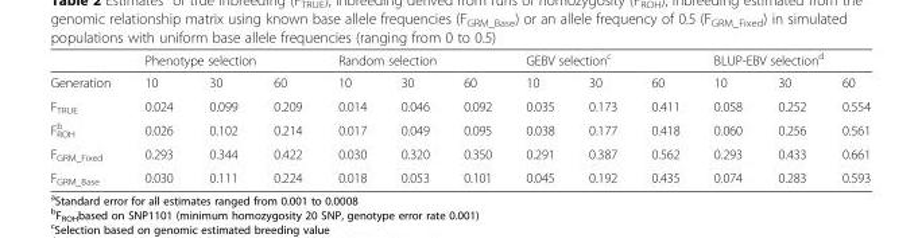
<table><thead><tr><td rowspan="2">Generation</td><td colspan="3">Phenotype selection</td><td colspan="3">Random selection</td><td colspan="3">GEBV selection<sup>c</sup></td><td colspan="3">BLUP-EBV selection<sup>d</sup></td></tr><tr><td>10</td><td>30</td><td>60</td><td>10</td><td>30</td><td>60</td><td>10</td><td>30</td><td>60</td><td>10</td><td>30</td><td>60</td></tr></thead><tbody><tr><td>F<sub>TRUE</sub></td><td>0.024</td><td>0.099</td><td>0.209</td><td>0.014</td><td>0.046</td><td>0.092</td><td>0.035</td><td>0.173</td><td>0.411</td><td>0.058</td><td>0.252</td><td>0.554</td></tr><tr><td>F<sub>ROH</sub> <sup>b</sup></td><td>0.026</td><td>0.102</td><td>0.214</td><td>0.017</td><td>0.049</td><td>0.095</td><td>0.038</td><td>0.177</td><td>0.418</td><td>0.060</td><td>0.256</td><td>0.561</td></tr><tr><td>F<sub>GRM_Fixed</sub></td><td>0.293</td><td>0.344</td><td>0.422</td><td>0.030</td><td>0.320</td><td>0.350</td><td>0.291</td><td>0.387</td><td>0.562</td><td>0.293</td><td>0.433</td><td>0.661</td></tr><tr><td>F<sub>GRM_Base</sub></td><td>0.030</td><td>0.111</td><td>0.224</td><td>0.018</td><td>0.053</td><td>0.101</td><td>0.045</td><td>0.192</td><td>0.435</td><td>0.074</td><td>0.283</td><td>0.593</td></tr></tbody></table>